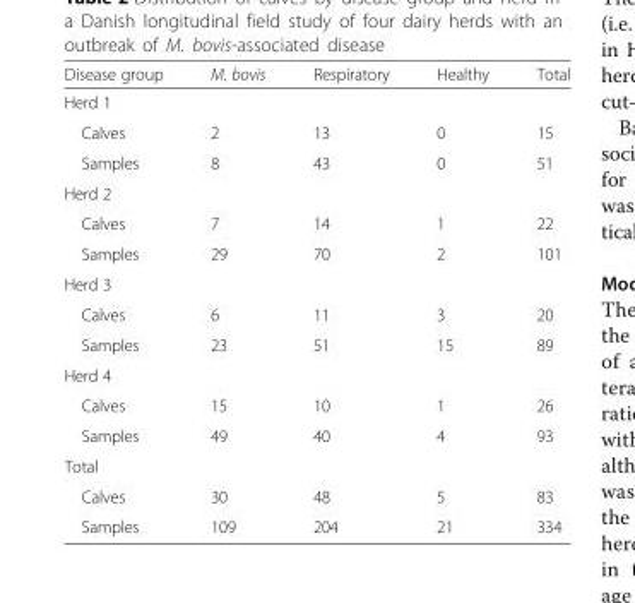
<table><thead><tr><td>Disease group</td><td>M. bovis</td><td>Respiratory</td><td>Healthy</td><td>Total</td></tr></thead><tbody><tr><td colspan="5">Herd 1</td></tr><tr><td>Calves</td><td>2</td><td>13</td><td>0</td><td>15</td></tr><tr><td>Samples</td><td>8</td><td>43</td><td>0</td><td>51</td></tr><tr><td colspan="5">Herd 2</td></tr><tr><td>Calves</td><td>7</td><td>14</td><td>1</td><td>22</td></tr><tr><td>Samples</td><td>29</td><td>70</td><td>2</td><td>101</td></tr><tr><td colspan="5">Herd 3</td></tr><tr><td>Calves</td><td>6</td><td>11</td><td>3</td><td>20</td></tr><tr><td>Samples</td><td>23</td><td>51</td><td>15</td><td>89</td></tr><tr><td colspan="5">Herd 4</td></tr><tr><td>Calves</td><td>15</td><td>10</td><td>1</td><td>26</td></tr><tr><td>Samples</td><td>49</td><td>40</td><td>4</td><td>93</td></tr><tr><td colspan="5">Total</td></tr><tr><td>Calves</td><td>30</td><td>48</td><td>5</td><td>83</td></tr><tr><td>Samples</td><td>109</td><td>204</td><td>21</td><td>334</td></tr></tbody></table>